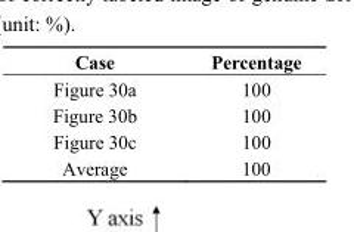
<table><thead><tr><td>Case</td><td>Percentage</td></tr></thead><tbody><tr><td>Figure 30a</td><td>100</td></tr><tr><td>Figure 30b</td><td>100</td></tr><tr><td>Figure 30c</td><td>100</td></tr><tr><td>Average</td><td>100</td></tr></tbody></table>